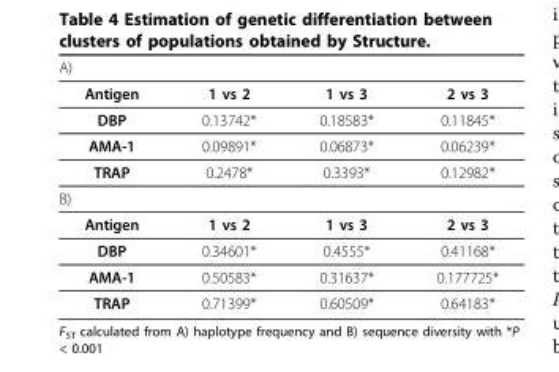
<table><thead><tr><td>A)</td><td></td><td></td><td></td></tr></thead><tbody><tr><td>Antigen</td><td>1 vs 2</td><td>1 vs 3</td><td>2 vs 3</td></tr><tr><td>DBP</td><td>0.13742*</td><td>0.18583*</td><td>0.11845*</td></tr><tr><td>AMA-1</td><td>0.09891*</td><td>0.06873*</td><td>0.06239*</td></tr><tr><td>TRAP</td><td>0.2478*</td><td>0.3393*</td><td>0.12982*</td></tr><tr><td colspan="4">B)</td></tr><tr><td>Antigen</td><td>1 vs 2</td><td>1 vs 3</td><td>2 vs 3</td></tr><tr><td>DBP</td><td>0.34601*</td><td>0.4555*</td><td>0.41168*</td></tr><tr><td>AMA-1</td><td>0.50583*</td><td>0.31637*</td><td>0.177725*</td></tr><tr><td>TRAP</td><td>0.71399*</td><td>0.60509*</td><td>0.64183*</td></tr></tbody></table>